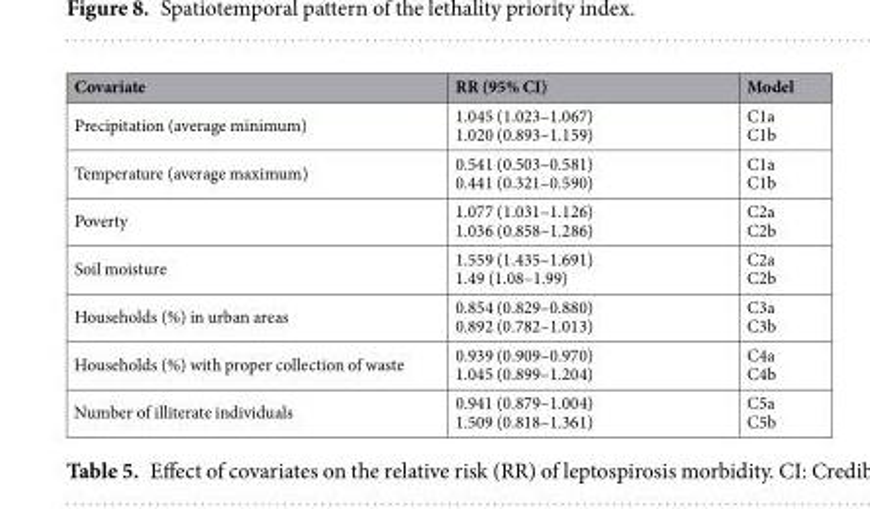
<table><thead><tr><td>Covariate</td><td>RR (95% CI)</td><td>Model</td></tr></thead><tbody><tr><td>Precipitation (average minimum)</td><td>1.045 (1.023–1.067) 1.020 (0.893–1.159)</td><td>C1a C1b</td></tr><tr><td>Temperature (average maximum)</td><td>0.541 (0.503–0.581) 0.441 (0.321–0.590)</td><td>C1a C1b</td></tr><tr><td>Poverty</td><td>1.077 (1.031–1.126) 1.036 (0.858–1.286)</td><td>C2a C2b</td></tr><tr><td>Soil moisture</td><td>1.559 (1.435–1.691) 1.49 (1.08–1.99)</td><td>C2a C2b</td></tr><tr><td>Households (%) in urban areas</td><td>0.854 (0.829–0.880) 0.892 (0.782–1.013)</td><td>C3a C3b</td></tr><tr><td>Households (%) with proper collection of waste</td><td>0.939 (0.909–0.970) 1.045 (0.899–1.204)</td><td>C4a C4b</td></tr><tr><td>Number of illiterate individuals</td><td>0.941 (0.879–1.004) 1.509 (0.818–1.361)</td><td>C5a C5b</td></tr></tbody></table>